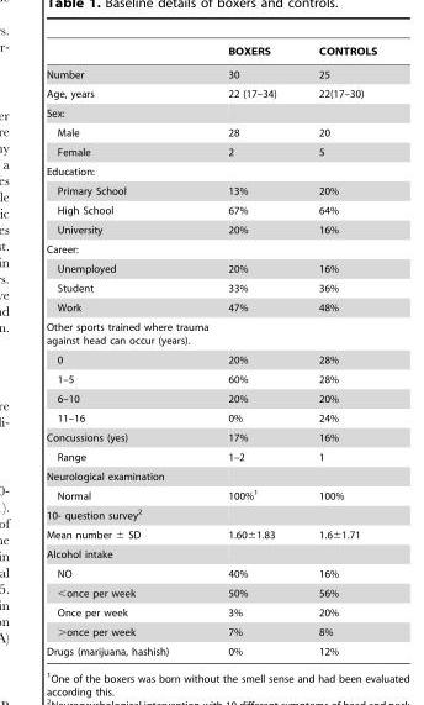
<table><thead><tr><td></td><td>BOXERS</td><td>CONTROLS</td></tr></thead><tbody><tr><td>Number</td><td>30</td><td>25</td></tr><tr><td>Age, years</td><td>22 (17–34)</td><td>22(17–30)</td></tr><tr><td colspan="3">Sex:</td></tr><tr><td>Male</td><td>28</td><td>20</td></tr><tr><td>Female</td><td>2</td><td>5</td></tr><tr><td colspan="3">Education:</td></tr><tr><td>Primary School</td><td>13%</td><td>20%</td></tr><tr><td>High School</td><td>67%</td><td>64%</td></tr><tr><td>University</td><td>20%</td><td>16%</td></tr><tr><td colspan="3">Career:</td></tr><tr><td>Unemployed</td><td>20%</td><td>16%</td></tr><tr><td>Student</td><td>33%</td><td>36%</td></tr><tr><td>Work</td><td>47%</td><td>48%</td></tr><tr><td colspan="3">Other sports trained where trauma against head can occur (years).</td></tr><tr><td>0</td><td>20%</td><td>28%</td></tr><tr><td>1–5</td><td>60%</td><td>28%</td></tr><tr><td>6–10</td><td>20%</td><td>20%</td></tr><tr><td>11–16</td><td>0%</td><td>24%</td></tr><tr><td>Concussions (yes)</td><td>17%</td><td>16%</td></tr><tr><td>Range</td><td>1–2</td><td>1</td></tr><tr><td colspan="3">Neurological examination</td></tr><tr><td>Normal</td><td>100%<sup>1</sup></td><td>100%</td></tr><tr><td colspan="3">10- question survey<sup>2</sup></td></tr><tr><td>Mean number ± SD</td><td>1.60±1.83</td><td>1.6±1.71</td></tr><tr><td colspan="3">Alcohol intake</td></tr><tr><td>NO</td><td>40%</td><td>16%</td></tr><tr><td>&lt;once per week</td><td>50%</td><td>56%</td></tr><tr><td>Once per week</td><td>3%</td><td>20%</td></tr><tr><td>&gt;once per week</td><td>7%</td><td>8%</td></tr><tr><td>Drugs (marijuana, hashish)</td><td>0%</td><td>12%</td></tr></tbody></table>